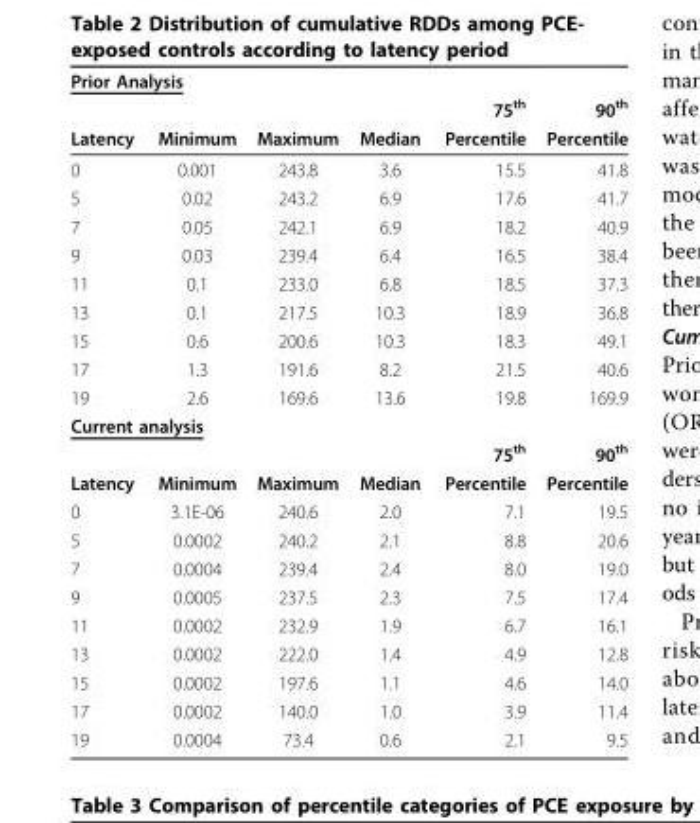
<table><thead><tr><td colspan="6">Prior Analysis</td></tr><tr><td rowspan="2">Latency</td><td rowspan="2">Minimum</td><td rowspan="2">Maximum</td><td rowspan="2">Median</td><td rowspan="2">75th Percentile</td><td rowspan="2">90th Percentile</td></tr><tr></tr></thead><tbody><tr><td>0</td><td>0.001</td><td>243.8</td><td>3.6</td><td>15.5</td><td>41.8</td></tr><tr><td>5</td><td>0.02</td><td>243.2</td><td>6.9</td><td>17.6</td><td>41.7</td></tr><tr><td>7</td><td>0.05</td><td>242.1</td><td>6.9</td><td>18.2</td><td>40.9</td></tr><tr><td>9</td><td>0.03</td><td>239.4</td><td>6.4</td><td>16.5</td><td>38.4</td></tr><tr><td>11</td><td>0.1</td><td>233.0</td><td>6.8</td><td>18.5</td><td>37.3</td></tr><tr><td>13</td><td>0.1</td><td>217.5</td><td>10.3</td><td>18.9</td><td>36.8</td></tr><tr><td>15</td><td>0.6</td><td>200.6</td><td>10.3</td><td>18.3</td><td>49.1</td></tr><tr><td>17</td><td>1.3</td><td>191.6</td><td>8.2</td><td>21.5</td><td>40.6</td></tr><tr><td>19</td><td>2.6</td><td>169.6</td><td>13.6</td><td>19.8</td><td>169.9</td></tr><tr><td colspan="6">Current analysis</td></tr><tr><td></td><td></td><td></td><td></td><td>75th</td><td>90<sup>th</sup></td></tr><tr><td>Latency</td><td>Minimum</td><td>Maximum</td><td>Median</td><td>Percentile</td><td>Percentile</td></tr><tr><td>0</td><td>3.1E-06</td><td>240.6</td><td>2.0</td><td>7.1</td><td>19.5</td></tr><tr><td>5</td><td>0.0002</td><td>240.2</td><td>2.1</td><td>8.8</td><td>20.6</td></tr><tr><td>7</td><td>0.0004</td><td>239.4</td><td>2.4</td><td>8.0</td><td>19.0</td></tr><tr><td>9</td><td>0.0005</td><td>237.5</td><td>2.3</td><td>7.5</td><td>17.4</td></tr><tr><td>11</td><td>0.0002</td><td>232.9</td><td>1.9</td><td>6.7</td><td>16.1</td></tr><tr><td>13</td><td>0.0002</td><td>222.0</td><td>1.4</td><td>4.9</td><td>12.8</td></tr><tr><td>15</td><td>0.0002</td><td>197.6</td><td>1.1</td><td>4.6</td><td>14.0</td></tr><tr><td>17</td><td>0.0002</td><td>140.0</td><td>1.0</td><td>3.9</td><td>11.4</td></tr><tr><td>19</td><td>0.0004</td><td>73.4</td><td>0.6</td><td>2.1</td><td>9.5</td></tr></tbody></table>